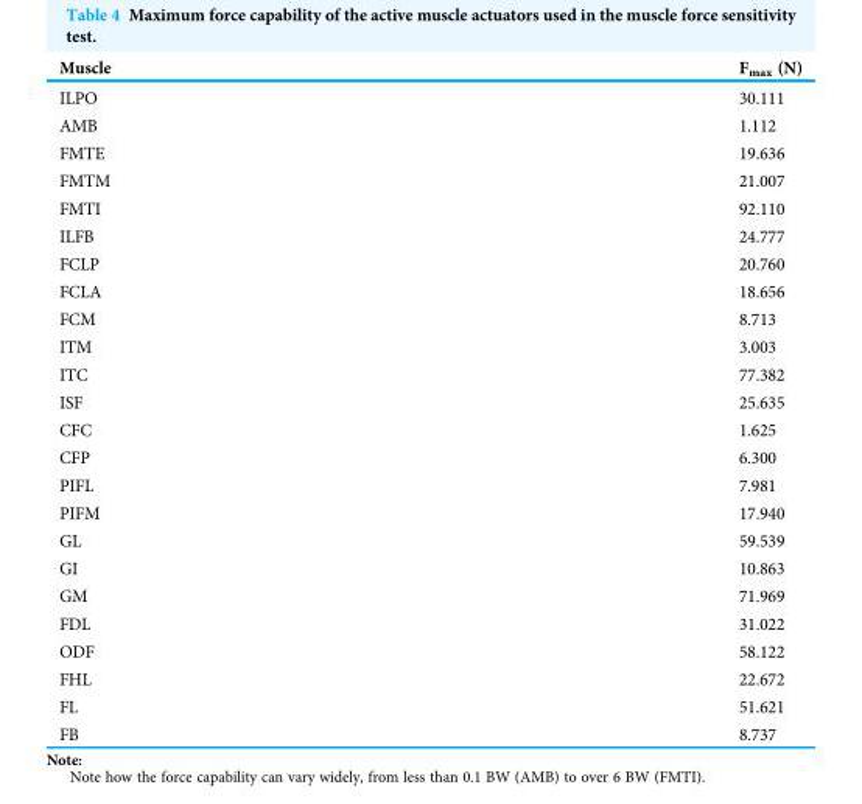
<table><thead><tr><td>Muscle</td><td>F<sub>max</sub> (N)</td></tr></thead><tbody><tr><td>ILPO</td><td>30.111</td></tr><tr><td>AMB</td><td>1.112</td></tr><tr><td>FMTE</td><td>19.636</td></tr><tr><td>FMTM</td><td>21.007</td></tr><tr><td>FMTI</td><td>92.110</td></tr><tr><td>ILFB</td><td>24.777</td></tr><tr><td>FCLP</td><td>20.760</td></tr><tr><td>FCLA</td><td>18.656</td></tr><tr><td>FCM</td><td>8.713</td></tr><tr><td>ITM</td><td>3.003</td></tr><tr><td>ITC</td><td>77.382</td></tr><tr><td>ISF</td><td>25.635</td></tr><tr><td>CFC</td><td>1.625</td></tr><tr><td>CFP</td><td>6.300</td></tr><tr><td>PIFL</td><td>7.981</td></tr><tr><td>PIFM</td><td>17.940</td></tr><tr><td>GL</td><td>59.539</td></tr><tr><td>GI</td><td>10.863</td></tr><tr><td>GM</td><td>71.969</td></tr><tr><td>FDL</td><td>31.022</td></tr><tr><td>ODF</td><td>58.122</td></tr><tr><td>FHL</td><td>22.672</td></tr><tr><td>FL</td><td>51.621</td></tr><tr><td>FB</td><td>8.737</td></tr></tbody></table>